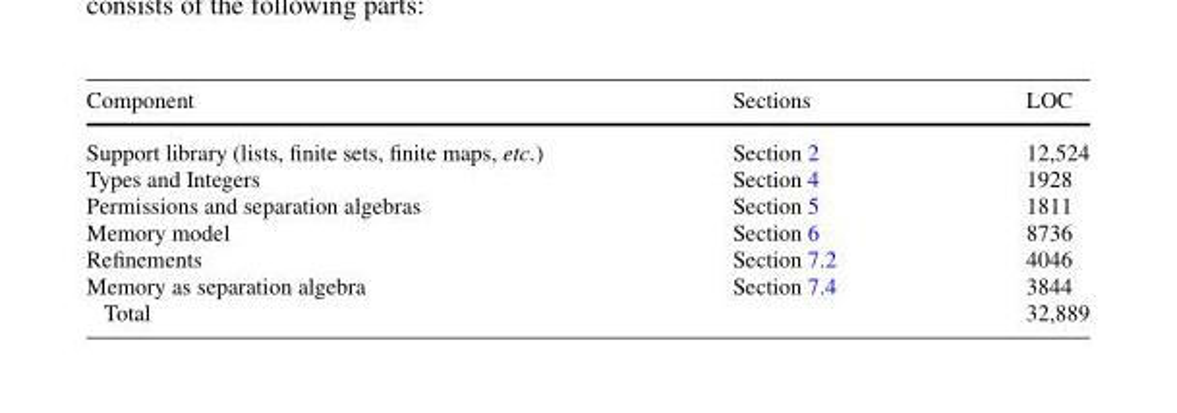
<table><thead><tr><td>Component</td><td>Sections</td><td>LOC</td></tr></thead><tbody><tr><td>Support library (lists, finite sets, finite maps, etc.)</td><td>Section 2</td><td>12,524</td></tr><tr><td>Types and Integers</td><td>Section 4</td><td>1928</td></tr><tr><td>Permissions and separation algebras</td><td>Section 5</td><td>1811</td></tr><tr><td>Memory model</td><td>Section 6</td><td>8736</td></tr><tr><td>Refinements</td><td>Section 7.2</td><td>4046</td></tr><tr><td>Memory as separation algebra</td><td>Section 7.4</td><td>3844</td></tr><tr><td colspan="2">Total</td><td>32,889</td></tr></tbody></table>